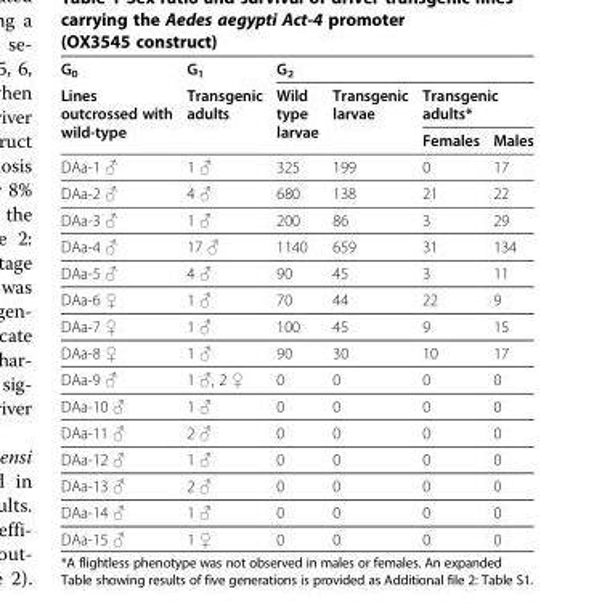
<table><thead><tr><td rowspan="3">G<sub>0</sub> Lines outcrossed with wild-type</td><td rowspan="3">G1 Transgenic adults</td><td colspan="4">G<sub>2</sub></td></tr><tr><td rowspan="2">Wild type larvae</td><td rowspan="2">Transgenic larvae</td><td colspan="2">Transgenic adults*</td></tr><tr><td>Females</td><td>Males</td></tr></thead><tbody><tr><td>DAa-1 ♂</td><td>1 ♂</td><td>325</td><td>199</td><td>0</td><td>17</td></tr><tr><td>DAa-2 ♂</td><td>4 ♂</td><td>680</td><td>138</td><td>21</td><td>22</td></tr><tr><td>DAa-3 ♂</td><td>1 ♂</td><td>200</td><td>86</td><td>3</td><td>29</td></tr><tr><td>DAa-4 ♂</td><td>17 ♂</td><td>1140</td><td>659</td><td>31</td><td>134</td></tr><tr><td>DAa-5 ♂</td><td>4 ♂</td><td>90</td><td>45</td><td>3</td><td>11</td></tr><tr><td>DAa-6 ♀</td><td>1 ♂</td><td>70</td><td>44</td><td>22</td><td>9</td></tr><tr><td>DAa-7 ♀</td><td>1 ♂</td><td>100</td><td>45</td><td>9</td><td>15</td></tr><tr><td>DAa-8 ♀</td><td>1 ♂</td><td>90</td><td>30</td><td>10</td><td>17</td></tr><tr><td>DAa-9 ♂</td><td>1 ♂, 2 ♀</td><td>0</td><td>0</td><td>0</td><td>0</td></tr><tr><td>DAa-10 ♂</td><td>1 ♂</td><td>0</td><td>0</td><td>0</td><td>0</td></tr><tr><td>DAa-11 ♂</td><td>2 ♂</td><td>0</td><td>0</td><td>0</td><td>0</td></tr><tr><td>DAa-12 ♂</td><td>1 ♂</td><td>0</td><td>0</td><td>0</td><td>0</td></tr><tr><td>DAa-13 ♂</td><td>2 ♂</td><td>0</td><td>0</td><td>0</td><td>0</td></tr><tr><td>DAa-14 ♂</td><td>1 ♂</td><td>0</td><td>0</td><td>0</td><td>0</td></tr><tr><td>DAa-15 ♂</td><td>1 ♀</td><td>0</td><td>0</td><td>0</td><td>0</td></tr></tbody></table>